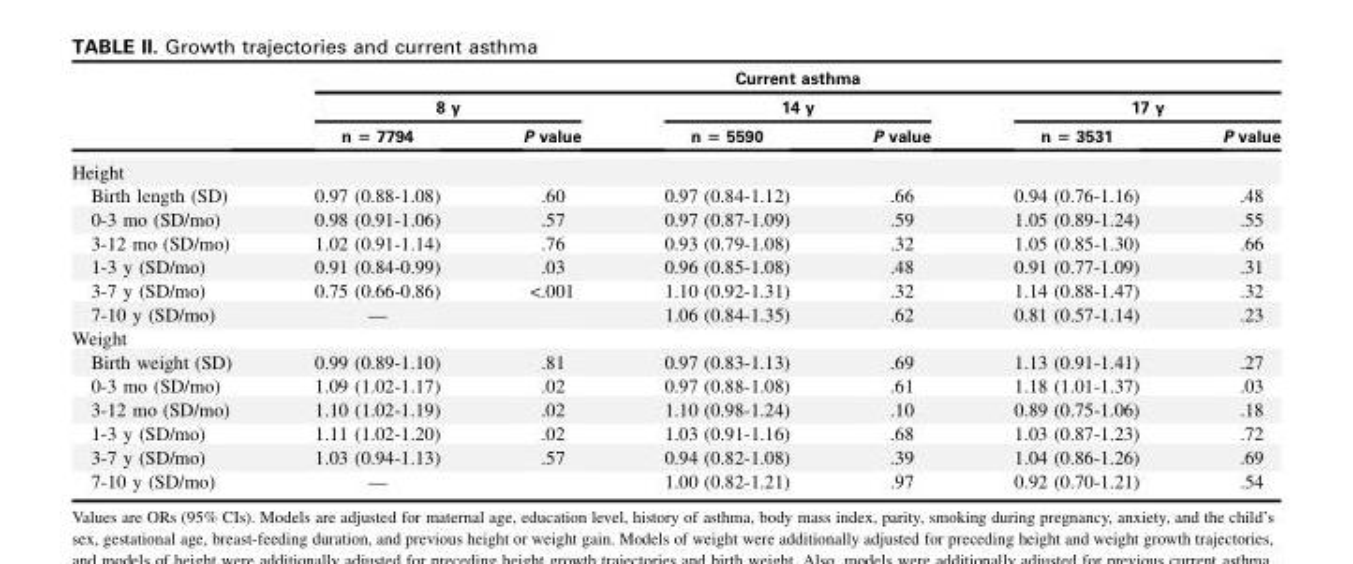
<table><thead><tr><td rowspan="3"></td><td colspan="6">Current asthma</td></tr><tr><td colspan="2">8 y</td><td colspan="2">14 y</td><td colspan="2">17 y</td></tr><tr><td>n = 7794</td><td>P value</td><td>n = 5590</td><td>P value</td><td>n = 3531</td><td>P value</td></tr></thead><tbody><tr><td colspan="7">Height</td></tr><tr><td>Birth length (SD)</td><td>0.97 (0.88-1.08)</td><td>.60</td><td>0.97 (0.84-1.12)</td><td>.66</td><td>0.94 (0.76-1.16)</td><td>.48</td></tr><tr><td>0-3 mo (SD/mo)</td><td>0.98 (0.91-1.06)</td><td>.57</td><td>0.97 (0.87-1.09)</td><td>.59</td><td>1.05 (0.89-1.24)</td><td>.55</td></tr><tr><td>3-12 mo (SD/mo)</td><td>1.02 (0.91-1.14)</td><td>.76</td><td>0.93 (0.79-1.08)</td><td>.32</td><td>1.05 (0.85-1.30)</td><td>.66</td></tr><tr><td>1-3 y (SD/mo)</td><td>0.91 (0.84-0.99)</td><td>.03</td><td>0.96 (0.85-1.08)</td><td>.48</td><td>0.91 (0.77-1.09)</td><td>.31</td></tr><tr><td>3-7 y (SD/mo)</td><td>0.75 (0.66-0.86)</td><td>&lt;.001</td><td>1.10 (0.92-1.31)</td><td>.32</td><td>1.14 (0.88-1.47)</td><td>.32</td></tr><tr><td>7-10 y (SD/mo)</td><td>—</td><td></td><td>1.06 (0.84-1.35)</td><td>.62</td><td>0.81 (0.57-1.14)</td><td>.23</td></tr><tr><td colspan="7">Weight</td></tr><tr><td>Birth weight (SD)</td><td>0.99 (0.89-1.10)</td><td>.81</td><td>0.97 (0.83-1.13)</td><td>.69</td><td>1.13 (0.91-1.41)</td><td>.27</td></tr><tr><td>0-3 mo (SD/mo)</td><td>1.09 (1.02-1.17)</td><td>.02</td><td>0.97 (0.88-1.08)</td><td>.61</td><td>1.18 (1.01-1.37)</td><td>.03</td></tr><tr><td>3-12 mo (SD/mo)</td><td>1.10 (1.02-1.19)</td><td>.02</td><td>1.10 (0.98-1.24)</td><td>.10</td><td>0.89 (0.75-1.06)</td><td>.18</td></tr><tr><td>1-3 y (SD/mo)</td><td>1.11 (1.02-1.20)</td><td>.02</td><td>1.03 (0.91-1.16)</td><td>.68</td><td>1.03 (0.87-1.23)</td><td>.72</td></tr><tr><td>3-7 y (SD/mo)</td><td>1.03 (0.94-1.13)</td><td>.57</td><td>0.94 (0.82-1.08)</td><td>.39</td><td>1.04 (0.86-1.26)</td><td>.69</td></tr><tr><td>7-10 y (SD/mo)</td><td>—</td><td></td><td>1.00 (0.82-1.21)</td><td>.97</td><td>0.92 (0.70-1.21)</td><td>.54</td></tr></tbody></table>